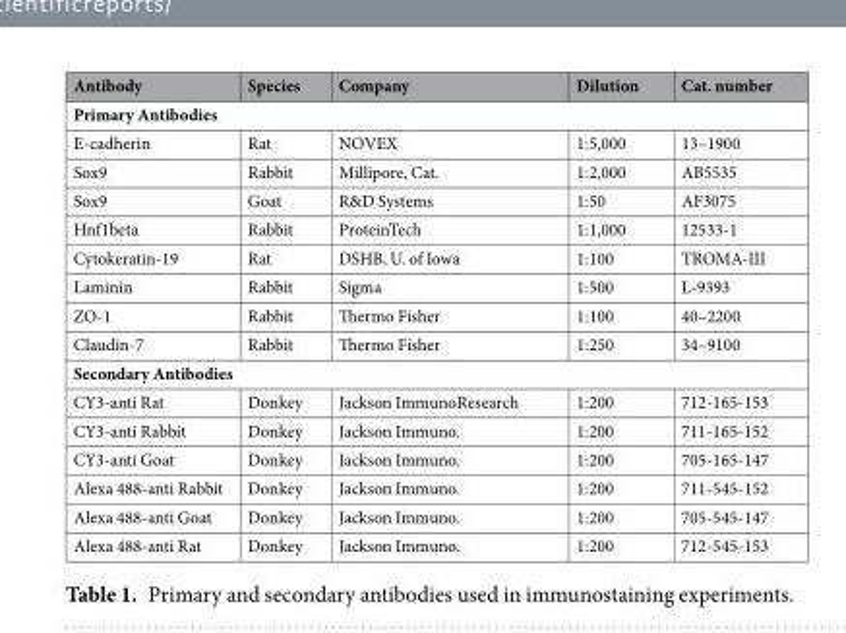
<table><thead><tr><td>Antibody</td><td>Species</td><td>Company</td><td>Dilution</td><td>Cat. number</td></tr></thead><tbody><tr><td colspan="5">Primary Antibodies</td></tr><tr><td>E-cadherin</td><td>Rat</td><td>NOVEX</td><td>1:5,000</td><td>13–1900</td></tr><tr><td>Sox9</td><td>Rabbit</td><td>Millipore, Cat.</td><td>1:2,000</td><td>AB5535</td></tr><tr><td>Sox9</td><td>Goat</td><td>R&amp;D Systems</td><td>1:50</td><td>AF3075</td></tr><tr><td>Hnf1beta</td><td>Rabbit</td><td>ProteinTech</td><td>1:1,000</td><td>12533-1</td></tr><tr><td>Cytokeratin-19</td><td>Rat</td><td>DSHB, U. of Iowa</td><td>1:100</td><td>TROMA-III</td></tr><tr><td>Laminin</td><td>Rabbit</td><td>Sigma</td><td>1:500</td><td>L-9393</td></tr><tr><td>ZO-1</td><td>Rabbit</td><td>Thermo Fisher</td><td>1:100</td><td>40–2200</td></tr><tr><td>Claudin-7</td><td>Rabbit</td><td>Thermo Fisher</td><td>1:250</td><td>34–9100</td></tr><tr><td colspan="5">Secondary Antibodies</td></tr><tr><td>CY3-anti Rat</td><td>Donkey</td><td>Jackson ImmunoResearch</td><td>1:200</td><td>712-165-153</td></tr><tr><td>CY3-anti Rabbit</td><td>Donkey</td><td>Jackson Immuno.</td><td>1:200</td><td>711-165-152</td></tr><tr><td>CY3-anti Goat</td><td>Donkey</td><td>Jackson Immuno.</td><td>1:200</td><td>705-165-147</td></tr><tr><td>Alexa 488-anti Rabbit</td><td>Donkey</td><td>Jackson Immuno.</td><td>1:200</td><td>711-545-152</td></tr><tr><td>Alexa 488-anti Goat</td><td>Donkey</td><td>Jackson Immuno.</td><td>1:200</td><td>705-545-147</td></tr><tr><td>Alexa 488-anti Rat</td><td>Donkey</td><td>Jackson Immuno.</td><td>1:200</td><td>712-545-153</td></tr></tbody></table>